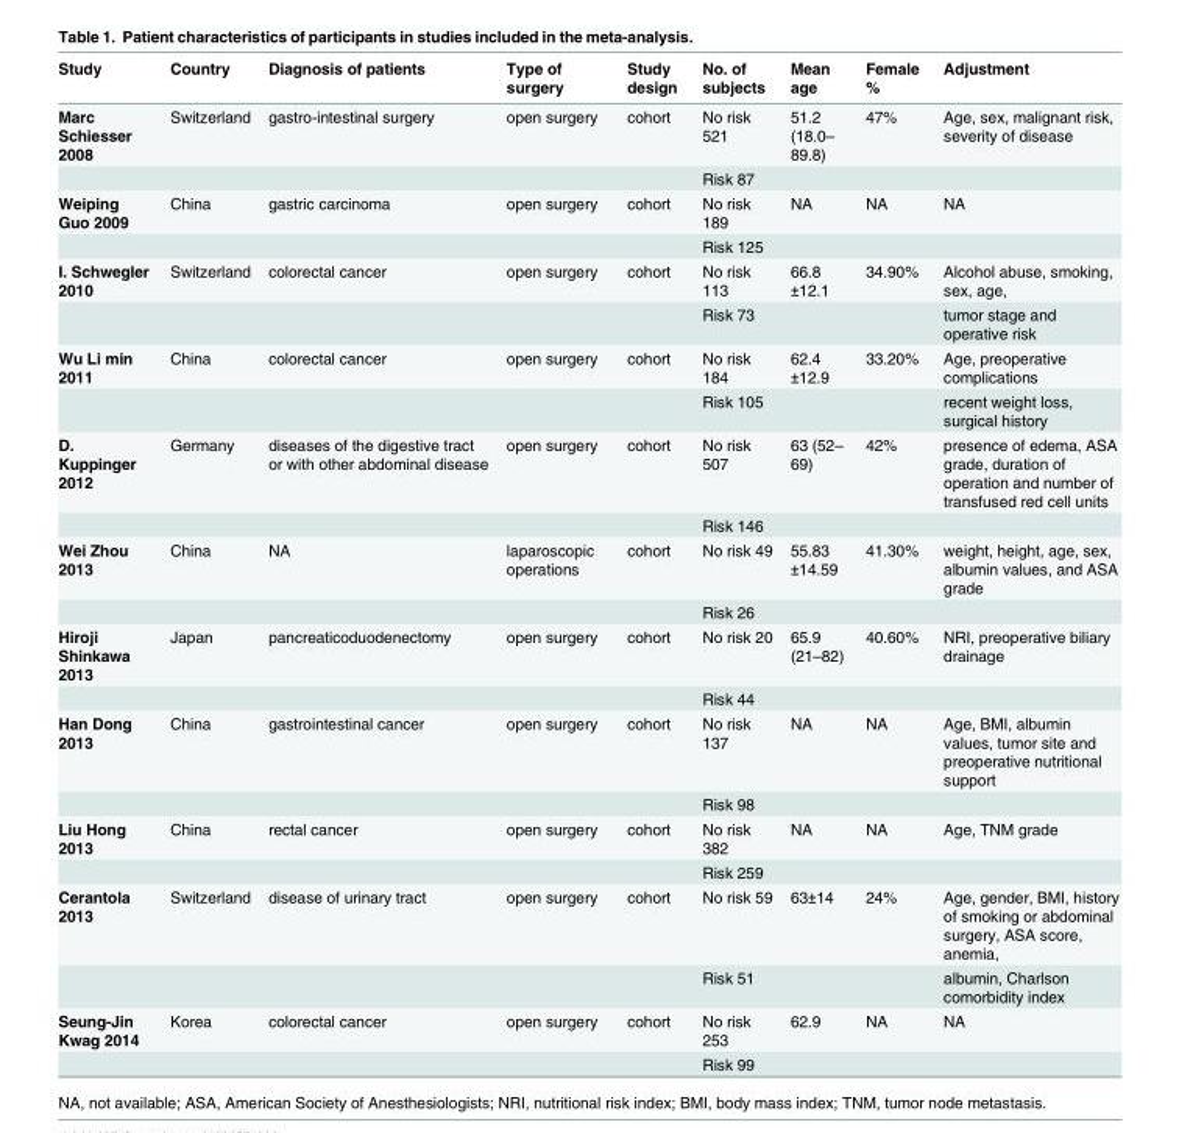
<table><thead><tr><td>Study</td><td>Country</td><td>Diagnosis of patients</td><td>Type of surgery</td><td>Study design</td><td>No. of subjects</td><td>Mean age</td><td>Female %</td><td>Adjustment</td></tr></thead><tbody><tr><td rowspan="2">Marc Schiesser 2008</td><td>Switzerland</td><td>gastro-intestinal surgery</td><td>open surgery</td><td>cohort</td><td>No risk 521</td><td>51.2 (18.0– 89.8)</td><td>47%</td><td>Age, sex, malignant risk, severity of disease</td></tr><tr><td></td><td></td><td></td><td></td><td>Risk 87</td><td></td><td></td><td></td></tr><tr><td rowspan="2">Weiping Guo 2009</td><td>China</td><td>gastric carcinoma</td><td>open surgery</td><td>cohort</td><td>No risk 189</td><td>NA</td><td>NA</td><td>NA</td></tr><tr><td></td><td></td><td></td><td></td><td>Risk 125</td><td></td><td></td><td></td></tr><tr><td rowspan="2">I. Schwegler 2010</td><td>Switzerland</td><td>colorectal cancer</td><td>open surgery</td><td>cohort</td><td>No risk 113</td><td>66.8 ±12.1</td><td>34.90%</td><td>Alcohol abuse, smoking, sex, age,</td></tr><tr><td></td><td></td><td></td><td></td><td>Risk 73</td><td></td><td></td><td>tumor stage and operative risk</td></tr><tr><td rowspan="2">Wu Li min 2011</td><td>China</td><td>colorectal cancer</td><td>open surgery</td><td>cohort</td><td>No risk 184</td><td>62.4 ±12.9</td><td>33.20%</td><td>Age, preoperative complications</td></tr><tr><td></td><td></td><td></td><td></td><td>Risk 105</td><td></td><td></td><td>recent weight loss, surgical history</td></tr><tr><td rowspan="2">D. Kuppinger 2012</td><td>Germany</td><td>diseases of the digestive tract or with other abdominal disease</td><td>open surgery</td><td>cohort</td><td>No risk 507</td><td>63 (52– 69)</td><td>42%</td><td>presence of edema, ASA grade, duration of operation and number of transfused red cell units</td></tr><tr><td></td><td></td><td></td><td></td><td>Risk 146</td><td></td><td></td><td></td></tr><tr><td rowspan="2">Wei Zhou 2013</td><td>China</td><td>NA</td><td>laparoscopic operations</td><td>cohort</td><td>No risk 49</td><td>55.83 ±14.59</td><td>41.30%</td><td>weight, height, age, sex, albumin values, and ASA grade</td></tr><tr><td></td><td></td><td></td><td></td><td>Risk 26</td><td></td><td></td><td></td></tr><tr><td rowspan="2">Hiroji Shinkawa 2013</td><td>Japan</td><td>pancreaticoduodenectomy</td><td>open surgery</td><td>cohort</td><td>No risk 20</td><td>65.9 (21–82)</td><td>40.60%</td><td>NRI, preoperative biliary drainage</td></tr><tr><td></td><td></td><td></td><td></td><td>Risk 44</td><td></td><td></td><td></td></tr><tr><td rowspan="2">Han Dong 2013</td><td>China</td><td>gastrointestinal cancer</td><td>open surgery</td><td>cohort</td><td>No risk 137</td><td>NA</td><td>NA</td><td>Age, BMI, albumin values, tumor site and preoperative nutritional support</td></tr><tr><td></td><td></td><td></td><td></td><td>Risk 98</td><td></td><td></td><td></td></tr><tr><td rowspan="2">Liu Hong 2013</td><td>China</td><td>rectal cancer</td><td>open surgery</td><td>cohort</td><td>No risk 382</td><td>NA</td><td>NA</td><td>Age, TNM grade</td></tr><tr><td></td><td></td><td></td><td></td><td>Risk 259</td><td></td><td></td><td></td></tr><tr><td rowspan="2">Cerantola 2013</td><td>Switzerland</td><td>disease of urinary tract</td><td>open surgery</td><td>cohort</td><td>No risk 59</td><td>63±14</td><td>24%</td><td>Age, gender, BMI, history of smoking or abdominal surgery, ASA score, anemia,</td></tr><tr><td></td><td></td><td></td><td></td><td>Risk 51</td><td></td><td></td><td>albumin, Charlson comorbidity index</td></tr><tr><td rowspan="2">Seung-Jin Kwag 2014</td><td>Korea</td><td>colorectal cancer</td><td>open surgery</td><td>cohort</td><td>No risk 253</td><td>62.9</td><td>NA</td><td>NA</td></tr><tr><td></td><td></td><td></td><td></td><td>Risk 99</td><td></td><td></td><td></td></tr></tbody></table>